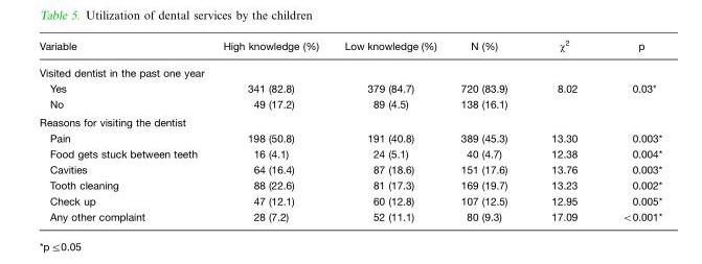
<table><thead><tr><td>Variable</td><td>High knowledge (%)</td><td>Low knowledge (%)</td><td>N (%)</td><td>χ<sup>2</sup></td><td>p</td></tr></thead><tbody><tr><td colspan="6">Visited dentist in the past one year</td></tr><tr><td>Yes</td><td>341 (82.8)</td><td>379 (84.7)</td><td>720 (83.9)</td><td>8.02</td><td>0.03*</td></tr><tr><td>No</td><td>49 (17.2)</td><td>89 (4.5)</td><td>138 (16.1)</td><td></td><td></td></tr><tr><td colspan="6">Reasons for visiting the dentist</td></tr><tr><td>Pain</td><td>198 (50.8)</td><td>191 (40.8)</td><td>389 (45.3)</td><td>13.30</td><td>0.003*</td></tr><tr><td>Food gets stuck between teeth</td><td>16 (4.1)</td><td>24 (5.1)</td><td>40 (4.7)</td><td>12.38</td><td>0.004*</td></tr><tr><td>Cavities</td><td>64 (16.4)</td><td>87 (18.6)</td><td>151 (17.6)</td><td>13.76</td><td>0.003*</td></tr><tr><td>Tooth cleaning</td><td>88 (22.6)</td><td>81 (17.3)</td><td>169 (19.7)</td><td>13.23</td><td>0.002*</td></tr><tr><td>Check up</td><td>47 (12.1)</td><td>60 (12.8)</td><td>107 (12.5)</td><td>12.95</td><td>0.005*</td></tr><tr><td>Any other complaint</td><td>28 (7.2)</td><td>52 (11.1)</td><td>80 (9.3)</td><td>17.09</td><td>&lt;0.001*</td></tr></tbody></table>